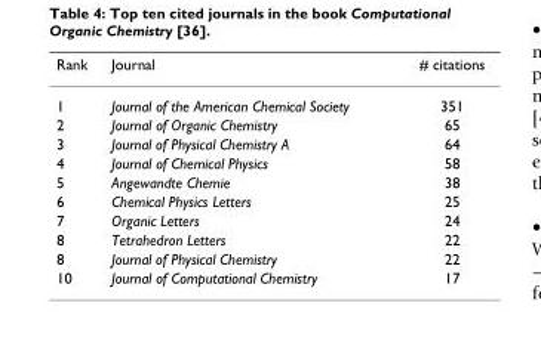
<table><thead><tr><td>Rank</td><td>Journal</td><td># citations</td></tr></thead><tbody><tr><td>1</td><td>Journal of the American Chemical Society</td><td>351</td></tr><tr><td>2</td><td>Journal of Organic Chemistry</td><td>65</td></tr><tr><td>3</td><td>Journal of Physical Chemistry A</td><td>64</td></tr><tr><td>4</td><td>Journal of Chemical Physics</td><td>58</td></tr><tr><td>5</td><td>Angewandte Chemie</td><td>38</td></tr><tr><td>6</td><td>Chemical Physics Letters</td><td>25</td></tr><tr><td>7</td><td>Organic Letters</td><td>24</td></tr><tr><td>8</td><td>Tetrahedron Letters</td><td>22</td></tr><tr><td>8</td><td>Journal of Physical Chemistry</td><td>22</td></tr><tr><td>10</td><td>Journal of Computational Chemistry</td><td>17</td></tr></tbody></table>